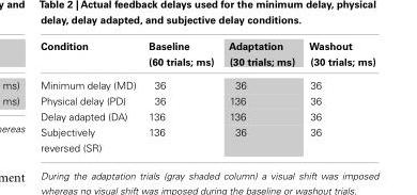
<table><thead><tr><td>Condition</td><td>Baseline (60 trials; ms)</td><td>Adaptation (30 trials; ms)</td><td>Washout (30 trials; ms)</td></tr></thead><tbody><tr><td>Minimum delay (MD)</td><td>36</td><td>36</td><td>36</td></tr><tr><td>Physical delay (PD)</td><td>36</td><td>136</td><td>36</td></tr><tr><td>Delay adapted (DA)</td><td>136</td><td>136</td><td>36</td></tr><tr><td>Subjectively reversed (SR)</td><td>136</td><td>36</td><td>36</td></tr></tbody></table>